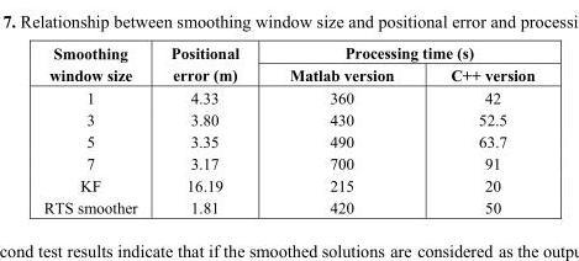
<table><thead><tr><td rowspan="2">Smoothing window size</td><td rowspan="2">Positional error (m)</td><td colspan="2">Processing time (s)</td></tr><tr><td>Matlab version</td><td>C++ version</td></tr></thead><tbody><tr><td>1</td><td>4.33</td><td>360</td><td>42</td></tr><tr><td>3</td><td>3.80</td><td>430</td><td>52.5</td></tr><tr><td>5</td><td>3.35</td><td>490</td><td>63.7</td></tr><tr><td>7</td><td>3.17</td><td>700</td><td>91</td></tr><tr><td>KF</td><td>16.19</td><td>215</td><td>20</td></tr><tr><td>RTS smoother</td><td>1.81</td><td>420</td><td>50</td></tr></tbody></table>